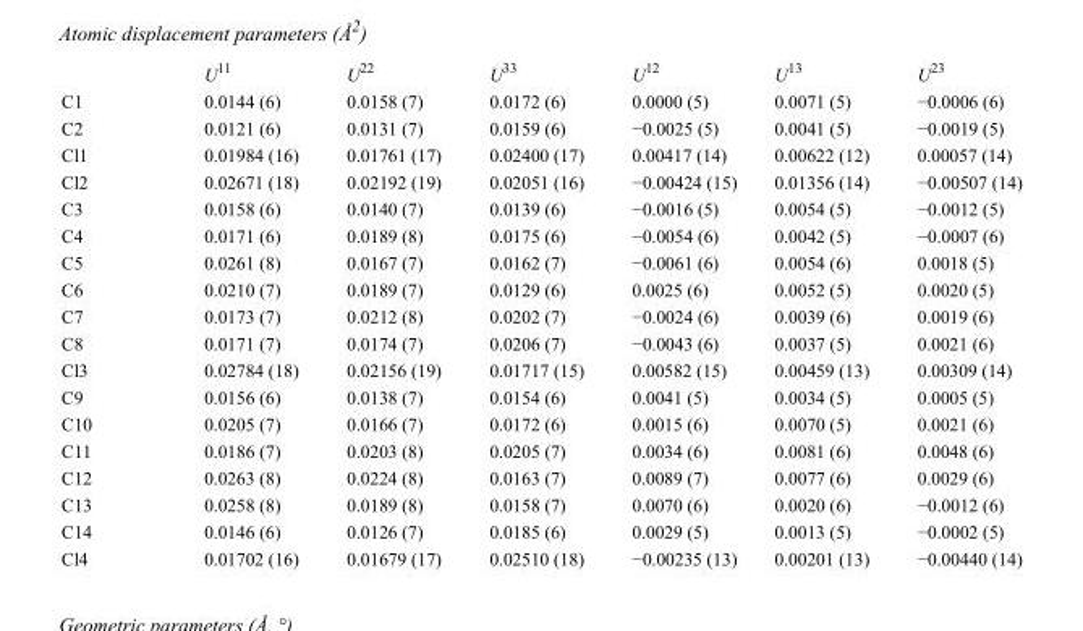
<table><thead><tr><td></td><td>U<sup>11</sup></td><td>U<sup>22</sup></td><td>U<sup>33</sup></td><td>U<sup>12</sup></td><td>U<sup>13</sup></td><td>U<sup>23</sup></td></tr></thead><tbody><tr><td>C1</td><td>0.0144 (6)</td><td>0.0158 (7)</td><td>0.0172 (6)</td><td>0.0000 (5)</td><td>0.0071 (5)</td><td>−0.0006 (6)</td></tr><tr><td>C2</td><td>0.0121 (6)</td><td>0.0131 (7)</td><td>0.0159 (6)</td><td>−0.0025 (5)</td><td>0.0041 (5)</td><td>−0.0019 (5)</td></tr><tr><td>Cl1</td><td>0.01984 (16)</td><td>0.01761 (17)</td><td>0.02400 (17)</td><td>0.00417 (14)</td><td>0.00622 (12)</td><td>0.00057 (14)</td></tr><tr><td>Cl2</td><td>0.02671 (18)</td><td>0.02192 (19)</td><td>0.02051 (16)</td><td>−0.00424 (15)</td><td>0.01356 (14)</td><td>−0.00507 (14)</td></tr><tr><td>C3</td><td>0.0158 (6)</td><td>0.0140 (7)</td><td>0.0139 (6)</td><td>−0.0016 (5)</td><td>0.0054 (5)</td><td>−0.0012 (5)</td></tr><tr><td>C4</td><td>0.0171 (6)</td><td>0.0189 (8)</td><td>0.0175 (6)</td><td>−0.0054 (6)</td><td>0.0042 (5)</td><td>−0.0007 (6)</td></tr><tr><td>C5</td><td>0.0261 (8)</td><td>0.0167 (7)</td><td>0.0162 (7)</td><td>−0.0061 (6)</td><td>0.0054 (6)</td><td>0.0018 (5)</td></tr><tr><td>C6</td><td>0.0210 (7)</td><td>0.0189 (7)</td><td>0.0129 (6)</td><td>0.0025 (6)</td><td>0.0052 (5)</td><td>0.0020 (5)</td></tr><tr><td>C7</td><td>0.0173 (7)</td><td>0.0212 (8)</td><td>0.0202 (7)</td><td>−0.0024 (6)</td><td>0.0039 (6)</td><td>0.0019 (6)</td></tr><tr><td>C8</td><td>0.0171 (7)</td><td>0.0174 (7)</td><td>0.0206 (7)</td><td>−0.0043 (6)</td><td>0.0037 (5)</td><td>0.0021 (6)</td></tr><tr><td>Cl3</td><td>0.02784 (18)</td><td>0.02156 (19)</td><td>0.01717 (15)</td><td>0.00582 (15)</td><td>0.00459 (13)</td><td>0.00309 (14)</td></tr><tr><td>C9</td><td>0.0156 (6)</td><td>0.0138 (7)</td><td>0.0154 (6)</td><td>0.0041 (5)</td><td>0.0034 (5)</td><td>0.0005 (5)</td></tr><tr><td>C10</td><td>0.0205 (7)</td><td>0.0166 (7)</td><td>0.0172 (6)</td><td>0.0015 (6)</td><td>0.0070 (5)</td><td>0.0021 (6)</td></tr><tr><td>C11</td><td>0.0186 (7)</td><td>0.0203 (8)</td><td>0.0205 (7)</td><td>0.0034 (6)</td><td>0.0081 (6)</td><td>0.0048 (6)</td></tr><tr><td>C12</td><td>0.0263 (8)</td><td>0.0224 (8)</td><td>0.0163 (7)</td><td>0.0089 (7)</td><td>0.0077 (6)</td><td>0.0029 (6)</td></tr><tr><td>C13</td><td>0.0258 (8)</td><td>0.0189 (8)</td><td>0.0158 (7)</td><td>0.0070 (6)</td><td>0.0020 (6)</td><td>−0.0012 (6)</td></tr><tr><td>C14</td><td>0.0146 (6)</td><td>0.0126 (7)</td><td>0.0185 (6)</td><td>0.0029 (5)</td><td>0.0013 (5)</td><td>−0.0002 (5)</td></tr><tr><td>Cl4</td><td>0.01702 (16)</td><td>0.01679 (17)</td><td>0.02510 (18)</td><td>−0.00235 (13)</td><td>0.00201 (13)</td><td>−0.00440 (14)</td></tr></tbody></table>